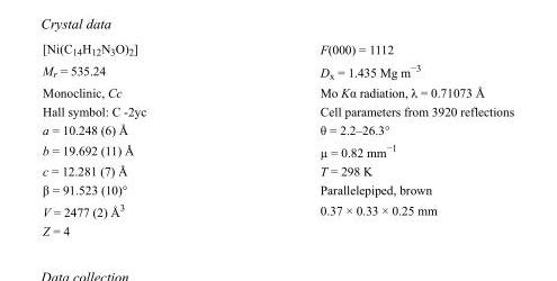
<table><tbody><tr><td>[Ni(C<sub>14</sub>H<sub>12</sub>N<sub>3</sub>O)<sub>2</sub>]</td><td>F(000) = 1112</td></tr><tr><td>M<sub>r</sub> = 535.24</td><td>D<sub>x</sub> = 1.435 Mg m<sup>−3</sup></td></tr><tr><td>Monoclinic, Cc</td><td>Mo Kα radiation, λ = 0.71073 Å</td></tr><tr><td>Hall symbol: C -2yc</td><td>Cell parameters from 3920 reflections</td></tr><tr><td>a = 10.248 (6) Å</td><td>θ = 2.2–26.3°</td></tr><tr><td>b = 19.692 (11) Å</td><td>µ = 0.82 mm<sup>−1</sup></td></tr><tr><td>c = 12.281 (7) Å</td><td>T = 298 K</td></tr><tr><td>β = 91.523 (10)°</td><td>Parallelepiped, brown</td></tr><tr><td>V = 2477 (2) Å<sup>3</sup></td><td>0.37 × 0.33 × 0.25 mm</td></tr><tr><td>Z = 4</td><td></td></tr></tbody></table>